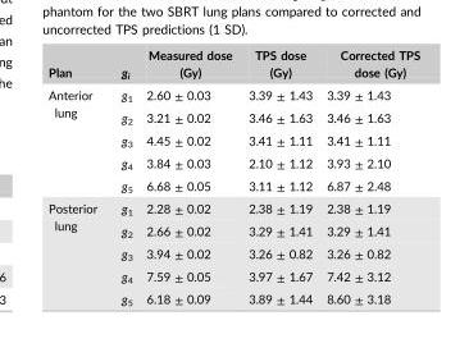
<table><thead><tr><td>Plan</td><td>g<sub>i</sub></td><td>Measured dose (Gy)</td><td>TPS dose (Gy)</td><td>Corrected TPS dose (Gy)</td></tr></thead><tbody><tr><td rowspan="5">Anterior lung</td><td>g<sub>1</sub></td><td>2.60 ± 0.03</td><td>3.39 ± 1.43</td><td>3.39 ± 1.43</td></tr><tr><td>g<sub>2</sub></td><td>3.21 ± 0.02</td><td>3.46 ± 1.63</td><td>3.46 ± 1.63</td></tr><tr><td>g<sub>3</sub></td><td>4.45 ± 0.02</td><td>3.41 ± 1.11</td><td>3.41 ± 1.11</td></tr><tr><td>g<sub>4</sub></td><td>3.84 ± 0.03</td><td>2.10 ± 1.12</td><td>3.93 ± 2.10</td></tr><tr><td>g<sub>5</sub></td><td>6.68 ± 0.05</td><td>3.11 ± 1.12</td><td>6.87 ± 2.48</td></tr><tr><td rowspan="5">Posterior lung</td><td>g<sub>1</sub></td><td>2.28 ± 0.02</td><td>2.38 ± 1.19</td><td>2.38 ± 1.19</td></tr><tr><td>g<sub>2</sub></td><td>2.66 ± 0.02</td><td>3.29 ± 1.41</td><td>3.29 ± 1.41</td></tr><tr><td>g<sub>3</sub></td><td>3.94 ± 0.02</td><td>3.26 ± 0.82</td><td>3.26 ± 0.82</td></tr><tr><td>g<sub>4</sub></td><td>7.59 ± 0.05</td><td>3.97 ± 1.67</td><td>7.42 ± 3.12</td></tr><tr><td>g<sub>5</sub></td><td>6.18 ± 0.09</td><td>3.89 ± 1.44</td><td>8.60 ± 3.18</td></tr></tbody></table>